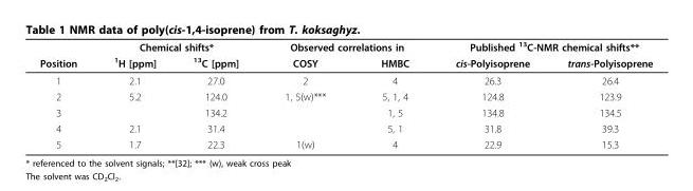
<table><thead><tr><td rowspan="2">Position</td><td colspan="2">Chemical shifts*</td><td colspan="2">Observed correlations in</td><td colspan="2">Published <sup>13</sup>C-NMR chemical shifts**</td></tr><tr><td><sup>1</sup>H [ppm]</td><td><sup>13</sup>C [ppm]</td><td>COSY</td><td>HMBC</td><td>cis-Polyisoprene</td><td>trans-Polyisoprene</td></tr></thead><tbody><tr><td>1</td><td>2.1</td><td>27.0</td><td>2</td><td>4</td><td>26.3</td><td>26.4</td></tr><tr><td>2</td><td>5.2</td><td>124.0</td><td>1, 5(w)***</td><td>5, 1, 4</td><td>124.8</td><td>123.9</td></tr><tr><td>3</td><td></td><td>134.2</td><td></td><td>1, 5</td><td>134.8</td><td>134.5</td></tr><tr><td>4</td><td>2.1</td><td>31.4</td><td></td><td>5, 1</td><td>31.8</td><td>39.3</td></tr><tr><td>5</td><td>1.7</td><td>22.3</td><td>1(w)</td><td>4</td><td>22.9</td><td>15.3</td></tr></tbody></table>